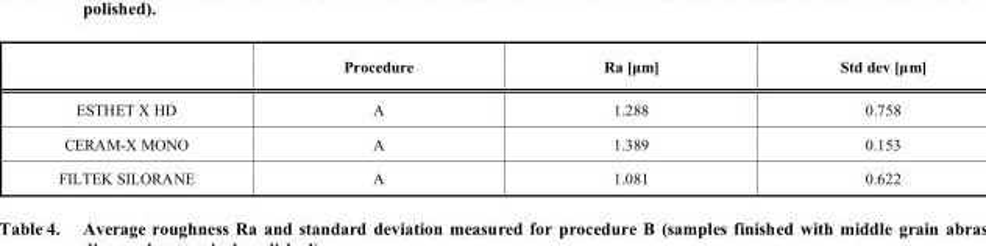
<table><thead><tr><td></td><td>Procedure</td><td>Ra [μm]</td><td>Std dev [μm]</td></tr></thead><tbody><tr><td>ESTHET X HD</td><td>A</td><td>1.288</td><td>0.758</td></tr><tr><td>CERAM-X MONO</td><td>A</td><td>1.389</td><td>0.153</td></tr><tr><td>FILTEK SILORANE</td><td>A</td><td>1.081</td><td>0.622</td></tr></tbody></table>